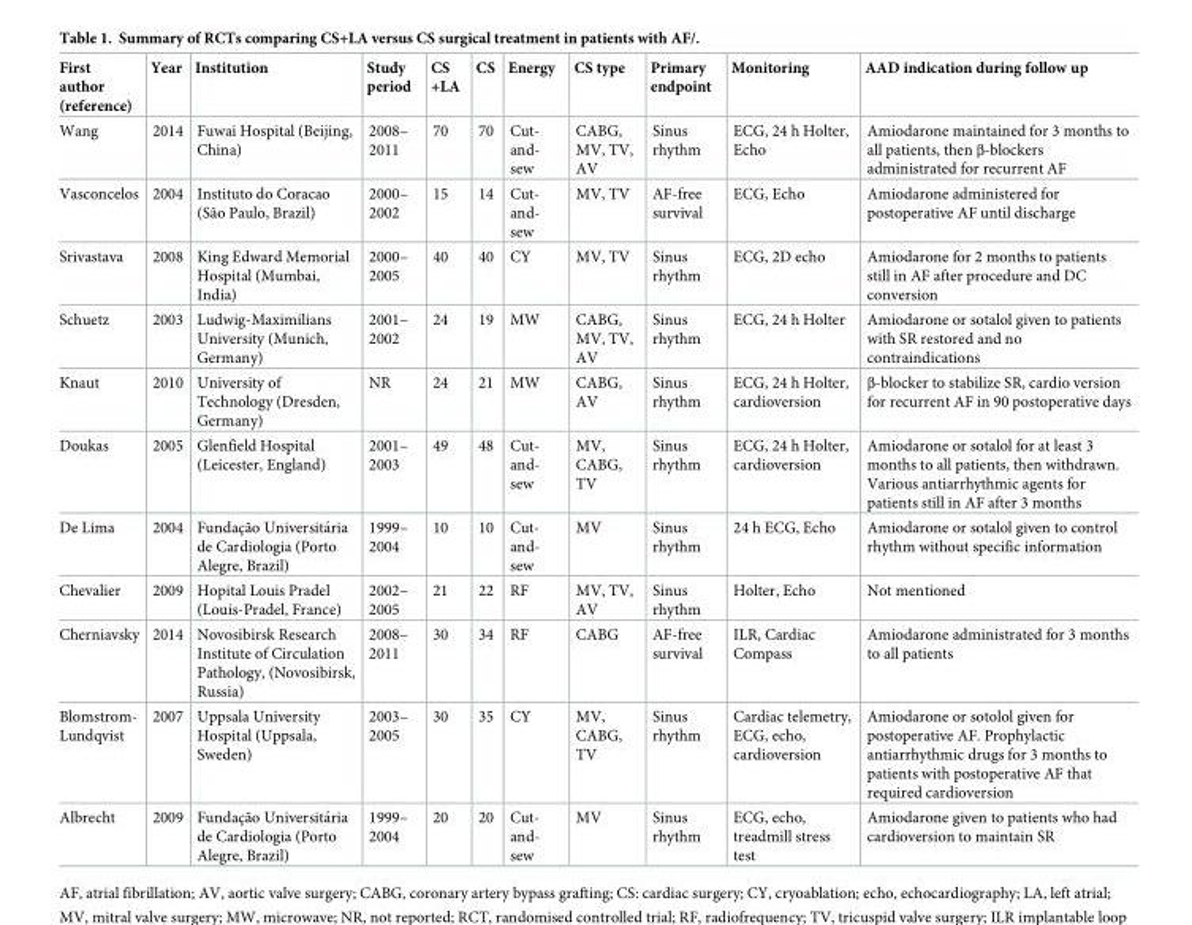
<table><thead><tr><td>First author (reference)</td><td>Year</td><td>Institution</td><td>Study period</td><td>CS +LA</td><td>CS</td><td>Energy</td><td>CS type</td><td>Primary endpoint</td><td>Monitoring</td><td>AAD indication during follow up</td></tr></thead><tbody><tr><td>Wang</td><td>2014</td><td>Fuwai Hospital (Beijing, China)</td><td>2008– 2011</td><td>70</td><td>70</td><td>Cut- and- sew</td><td>CABG, MV, TV, AV</td><td>Sinus rhythm</td><td>ECG, 24 h Holter, Echo</td><td>Amiodarone maintained for 3 months to all patients, then β-blockers administrated for recurrent AF</td></tr><tr><td>Vasconcelos</td><td>2004</td><td>Instituto do Coracao (São Paulo, Brazil)</td><td>2000– 2002</td><td>15</td><td>14</td><td>Cut- and- sew</td><td>MV, TV</td><td>AF-free survival</td><td>ECG, Echo</td><td>Amiodarone administered for postoperative AF until discharge</td></tr><tr><td>Srivastava</td><td>2008</td><td>King Edward Memorial Hospital (Mumbai, India)</td><td>2000– 2005</td><td>40</td><td>40</td><td>CY</td><td>MV, TV</td><td>Sinus rhythm</td><td>ECG, 2D echo</td><td>Amiodarone for 2 months to patients still in AF after procedure and DC conversion</td></tr><tr><td>Schuetz</td><td>2003</td><td>Ludwig-Maximilians University (Munich, Germany)</td><td>2001– 2002</td><td>24</td><td>19</td><td>MW</td><td>CABG, MV, TV, AV</td><td>Sinus rhythm</td><td>ECG, 24 h Holter</td><td>Amiodarone or sotalol given to patients with SR restored and no contraindications</td></tr><tr><td>Knaut</td><td>2010</td><td>University of Technology (Dresden, Germany)</td><td>NR</td><td>24</td><td>21</td><td>MW</td><td>CABG, AV</td><td>Sinus rhythm</td><td>ECG, 24 h Holter, cardioversion</td><td>β-blocker to stabilize SR, cardio version for recurrent AF in 90 postoperative days</td></tr><tr><td>Doukas</td><td>2005</td><td>Glenfield Hospital (Leicester, England)</td><td>2001– 2003</td><td>49</td><td>48</td><td>Cut- and- sew</td><td>MV, CABG, TV</td><td>Sinus rhythm</td><td>ECG, 24 h Holter, cardioversion</td><td>Amiodarone or sotalol for at least 3 months to all patients, then withdrawn. Various antiarrhythmic agents for patients still in AF after 3 months</td></tr><tr><td>De Lima</td><td>2004</td><td>Fundac¸ão Universita´ria de Cardiologia (Porto Alegre, Brazil)</td><td>1999– 2004</td><td>10</td><td>10</td><td>Cut- and- sew</td><td>MV</td><td>Sinus rhythm</td><td>24 h ECG, Echo</td><td>Amiodarone or sotalol given to control rhythm without specific information</td></tr><tr><td>Chevalier</td><td>2009</td><td>Hopital Louis Pradel (Louis-Pradel, France)</td><td>2002– 2005</td><td>21</td><td>22</td><td>RF</td><td>MV, TV, AV</td><td>Sinus rhythm</td><td>Holter, Echo</td><td>Not mentioned</td></tr><tr><td>Cherniavsky</td><td>2014</td><td>Novosibirsk Research Institute of Circulation Pathology, (Novosibirsk, Russia)</td><td>2008– 2011</td><td>30</td><td>34</td><td>RF</td><td>CABG</td><td>AF-free survival</td><td>ILR, Cardiac Compass</td><td>Amiodarone administrated for 3 months to all patients</td></tr><tr><td>Blomstrom- Lundqvist</td><td>2007</td><td>Uppsala University Hospital (Uppsala, Sweden)</td><td>2003– 2005</td><td>30</td><td>35</td><td>CY</td><td>MV, CABG, TV</td><td>Sinus rhythm</td><td>Cardiac telemetry, ECG, echo, cardioversion</td><td>Amiodarone or sotolol given for postoperative AF. Prophylactic antiarrhythmic drugs for 3 months to patients with postoperative AF that required cardioversion</td></tr><tr><td>Albrecht</td><td>2009</td><td>Fundac¸ão Universita´ria de Cardiologia (Porto Alegre, Brazil)</td><td>1999– 2004</td><td>20</td><td>20</td><td>Cut- and- sew</td><td>MV</td><td>Sinus rhythm</td><td>ECG, echo, treadmill stress test</td><td>Amiodarone given to patients who had cardioversion to maintain SR</td></tr></tbody></table>